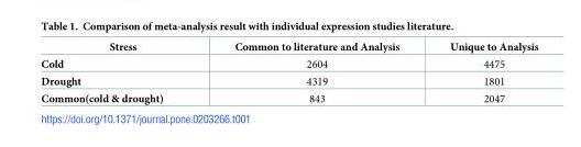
<table><thead><tr><td>Stress</td><td>Common to literature and Analysis</td><td>Unique to Analysis</td></tr></thead><tbody><tr><td>Cold</td><td>2604</td><td>4475</td></tr><tr><td>Drought</td><td>4319</td><td>1801</td></tr><tr><td>Common(cold &amp; drought)</td><td>843</td><td>2047</td></tr></tbody></table>